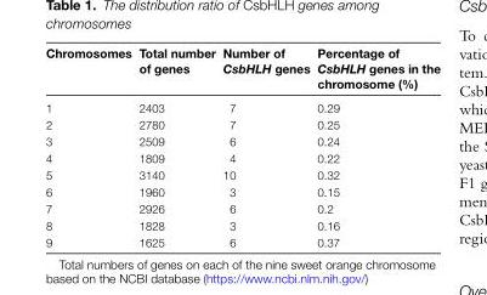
<table><thead><tr><td>Chromosomes</td><td>Total number of genes</td><td>Number of CsbHLH genes</td><td>Percentage of CsbHLH genes in the chromosome (%)</td></tr></thead><tbody><tr><td>1</td><td>2403</td><td>7</td><td>0.29</td></tr><tr><td>2</td><td>2780</td><td>7</td><td>0.25</td></tr><tr><td>3</td><td>2509</td><td>6</td><td>0.24</td></tr><tr><td>4</td><td>1809</td><td>4</td><td>0.22</td></tr><tr><td>5</td><td>3140</td><td>10</td><td>0.32</td></tr><tr><td>6</td><td>1960</td><td>3</td><td>0.15</td></tr><tr><td>7</td><td>2926</td><td>6</td><td>0.2</td></tr><tr><td>8</td><td>1828</td><td>3</td><td>0.16</td></tr><tr><td>9</td><td>1625</td><td>6</td><td>0.37</td></tr></tbody></table>